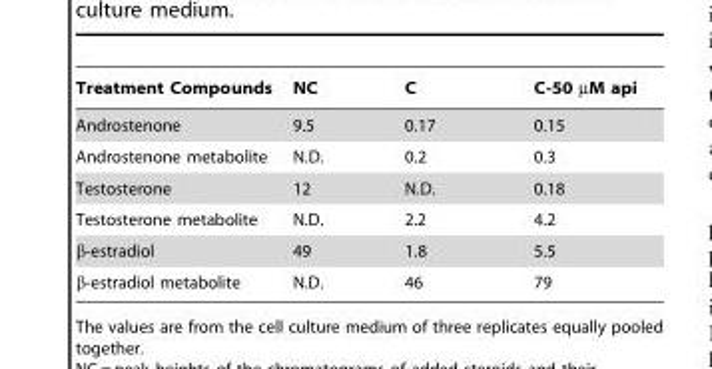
<table><thead><tr><td>Treatment Compounds</td><td>NC</td><td>C</td><td>C-50 µM api</td></tr></thead><tbody><tr><td>Androstenone</td><td>9.5</td><td>0.17</td><td>0.15</td></tr><tr><td>Androstenone metabolite</td><td>N.D.</td><td>0.2</td><td>0.3</td></tr><tr><td>Testosterone</td><td>12</td><td>N.D.</td><td>0.18</td></tr><tr><td>Testosterone metabolite</td><td>N.D.</td><td>2.2</td><td>4.2</td></tr><tr><td>β-estradiol</td><td>49</td><td>1.8</td><td>5.5</td></tr><tr><td>β-estradiol metabolite</td><td>N.D.</td><td>46</td><td>79</td></tr></tbody></table>